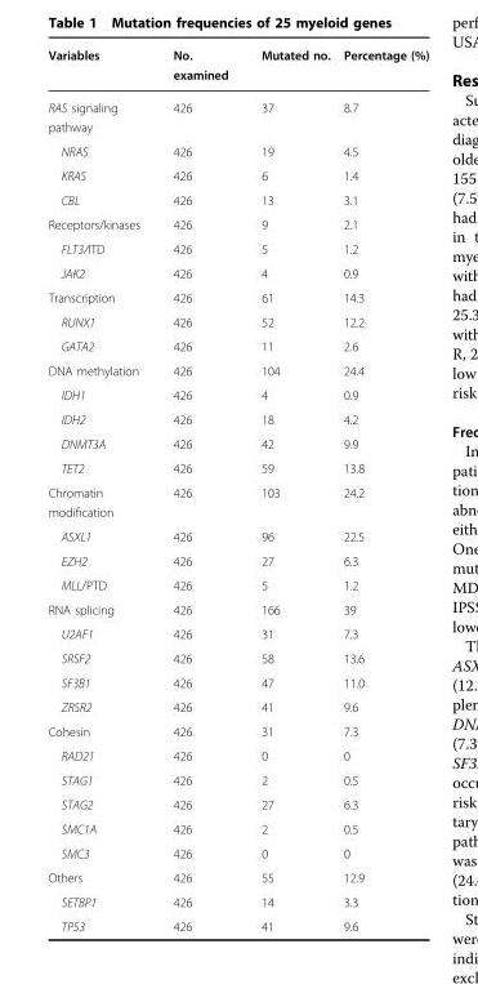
<table><thead><tr><td>Variables</td><td>No. examined</td><td>Mutated no.</td><td>Percentage (%)</td></tr></thead><tbody><tr><td>RAS signaling pathway</td><td>426</td><td>37</td><td>8.7</td></tr><tr><td>NRAS</td><td>426</td><td>19</td><td>4.5</td></tr><tr><td>KRAS</td><td>426</td><td>6</td><td>1.4</td></tr><tr><td>CBL</td><td>426</td><td>13</td><td>3.1</td></tr><tr><td>Receptors/kinases</td><td>426</td><td>9</td><td>2.1</td></tr><tr><td>FLT3/ITD</td><td>426</td><td>5</td><td>1.2</td></tr><tr><td>JAK2</td><td>426</td><td>4</td><td>0.9</td></tr><tr><td>Transcription</td><td>426</td><td>61</td><td>14.3</td></tr><tr><td>RUNX1</td><td>426</td><td>52</td><td>12.2</td></tr><tr><td>GATA2</td><td>426</td><td>11</td><td>2.6</td></tr><tr><td>DNA methylation</td><td>426</td><td>104</td><td>24.4</td></tr><tr><td>IDH1</td><td>426</td><td>4</td><td>0.9</td></tr><tr><td>IDH2</td><td>426</td><td>18</td><td>4.2</td></tr><tr><td>DNMT3A</td><td>426</td><td>42</td><td>9.9</td></tr><tr><td>TET2</td><td>426</td><td>59</td><td>13.8</td></tr><tr><td>Chromatin modification</td><td>426</td><td>103</td><td>24.2</td></tr><tr><td>ASXL1</td><td>426</td><td>96</td><td>22.5</td></tr><tr><td>EZH2</td><td>426</td><td>27</td><td>6.3</td></tr><tr><td>MLL/PTD</td><td>426</td><td>5</td><td>1.2</td></tr><tr><td>RNA splicing</td><td>426</td><td>166</td><td>39</td></tr><tr><td>U2AF1</td><td>426</td><td>31</td><td>7.3</td></tr><tr><td>SRSF2</td><td>426</td><td>58</td><td>13.6</td></tr><tr><td>SF3B1</td><td>426</td><td>47</td><td>11.0</td></tr><tr><td>ZRSR2</td><td>426</td><td>41</td><td>9.6</td></tr><tr><td>Cohesin</td><td>426</td><td>31</td><td>7.3</td></tr><tr><td>RAD21</td><td>426</td><td>0</td><td>0</td></tr><tr><td>STAG1</td><td>426</td><td>2</td><td>0.5</td></tr><tr><td>STAG2</td><td>426</td><td>27</td><td>6.3</td></tr><tr><td>SMC1A</td><td>426</td><td>2</td><td>0.5</td></tr><tr><td>SMC3</td><td>426</td><td>0</td><td>0</td></tr><tr><td>Others</td><td>426</td><td>55</td><td>12.9</td></tr><tr><td>SETBP1</td><td>426</td><td>14</td><td>3.3</td></tr><tr><td>TP53</td><td>426</td><td>41</td><td>9.6</td></tr></tbody></table>